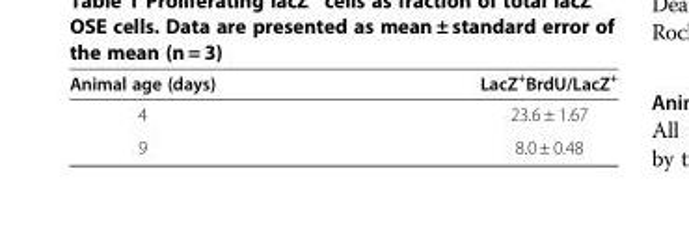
<table><thead><tr><td>Animal age (days)</td><td>LacZ<sup>+</sup>BrdU/LacZ<sup>+</sup></td></tr></thead><tbody><tr><td>4</td><td>23.6 ± 1.67</td></tr><tr><td>9</td><td>8.0 ± 0.48</td></tr></tbody></table>